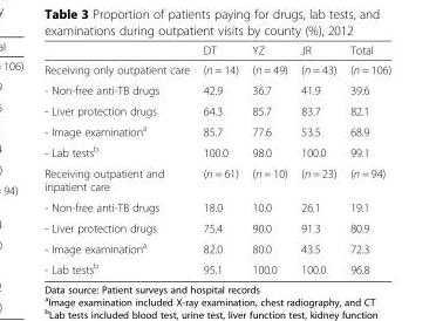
<table><thead><tr><td></td><td>DT</td><td>YZ</td><td>JR</td><td>Total</td></tr></thead><tbody><tr><td>Receiving only outpatient care</td><td>(n = 14)</td><td>(n = 49)</td><td>(n = 43)</td><td>(n = 106)</td></tr><tr><td>- Non-free anti-TB drugs</td><td>42.9</td><td>36.7</td><td>41.9</td><td>39.6</td></tr><tr><td>- Liver protection drugs</td><td>64.3</td><td>85.7</td><td>83.7</td><td>82.1</td></tr><tr><td>- Image examination<sup>a</sup></td><td>85.7</td><td>77.6</td><td>53.5</td><td>68.9</td></tr><tr><td>- Lab tests<sup>b</sup></td><td>100.0</td><td>98.0</td><td>100.0</td><td>99.1</td></tr><tr><td>Receiving outpatient and inpatient care</td><td>(n = 61)</td><td>(n = 10)</td><td>(n = 23)</td><td>(n = 94)</td></tr><tr><td>- Non-free anti-TB drugs</td><td>18.0</td><td>10.0</td><td>26.1</td><td>19.1</td></tr><tr><td>- Liver protection drugs</td><td>75.4</td><td>90.0</td><td>91.3</td><td>80.9</td></tr><tr><td>- Image examination<sup>a</sup></td><td>82.0</td><td>80.0</td><td>43.5</td><td>72.3</td></tr><tr><td>- Lab tests<sup>b</sup></td><td>95.1</td><td>100.0</td><td>100.0</td><td>96.8</td></tr></tbody></table>